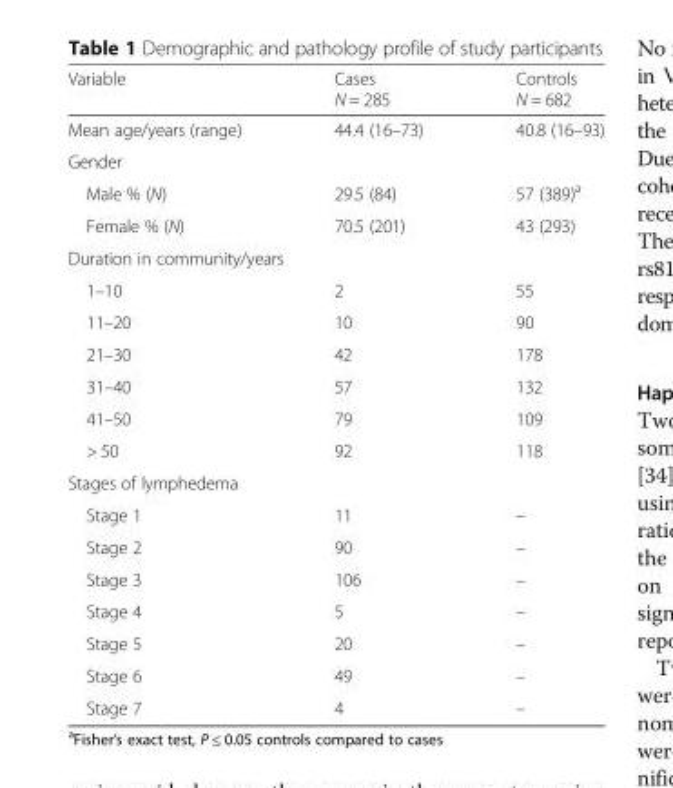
<table><thead><tr><td>Variable</td><td>Cases N = 285</td><td>Controls N = 682</td></tr></thead><tbody><tr><td>Mean age/years (range)</td><td>44.4 (16–73)</td><td>40.8 (16–93)</td></tr><tr><td colspan="3">Gender</td></tr><tr><td>Male % (N)</td><td>29.5 (84)</td><td>57 (389)<sup>a</sup></td></tr><tr><td>Female % (N)</td><td>70.5 (201)</td><td>43 (293)</td></tr><tr><td colspan="3">Duration in community/years</td></tr><tr><td>1–10</td><td>2</td><td>55</td></tr><tr><td>11–20</td><td>10</td><td>90</td></tr><tr><td>21–30</td><td>42</td><td>178</td></tr><tr><td>31–40</td><td>57</td><td>132</td></tr><tr><td>41–50</td><td>79</td><td>109</td></tr><tr><td>&gt; 50</td><td>92</td><td>118</td></tr><tr><td colspan="3">Stages of lymphedema</td></tr><tr><td>Stage 1</td><td>11</td><td>–</td></tr><tr><td>Stage 2</td><td>90</td><td>–</td></tr><tr><td>Stage 3</td><td>106</td><td>–</td></tr><tr><td>Stage 4</td><td>5</td><td>–</td></tr><tr><td>Stage 5</td><td>20</td><td>–</td></tr><tr><td>Stage 6</td><td>49</td><td>–</td></tr><tr><td>Stage 7</td><td>4</td><td>–</td></tr></tbody></table>